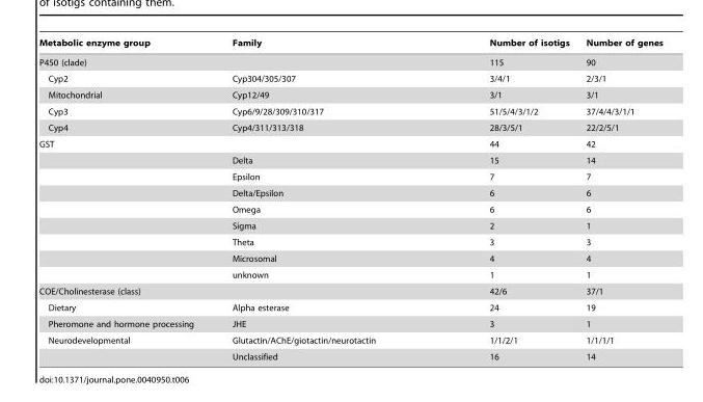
<table><thead><tr><td>Metabolic enzyme group</td><td>Family</td><td>Number of isotigs</td><td>Number of genes</td></tr></thead><tbody><tr><td>P450 (clade)</td><td></td><td>115</td><td>90</td></tr><tr><td>Cyp2</td><td>Cyp304/305/307</td><td>3/4/1</td><td>2/3/1</td></tr><tr><td>Mitochondrial</td><td>Cyp12/49</td><td>3/1</td><td>3/1</td></tr><tr><td>Cyp3</td><td>Cyp6/9/28/309/310/317</td><td>51/5/4/3/1/2</td><td>37/4/4/3/1/1</td></tr><tr><td>Cyp4</td><td>Cyp4/311/313/318</td><td>28/3/5/1</td><td>22/2/5/1</td></tr><tr><td rowspan="9">GST</td><td></td><td>44</td><td>42</td></tr><tr><td>Delta</td><td>15</td><td>14</td></tr><tr><td>Epsilon</td><td>7</td><td>7</td></tr><tr><td>Delta/Epsilon</td><td>6</td><td>6</td></tr><tr><td>Omega</td><td>6</td><td>6</td></tr><tr><td>Sigma</td><td>2</td><td>1</td></tr><tr><td>Theta</td><td>3</td><td>3</td></tr><tr><td>Microsomal</td><td>4</td><td>4</td></tr><tr><td>unknown</td><td>1</td><td>1</td></tr><tr><td>COE/Cholinesterase (class)</td><td></td><td>42/6</td><td>37/1</td></tr><tr><td>Dietary</td><td>Alpha esterase</td><td>24</td><td>19</td></tr><tr><td>Pheromone and hormone processing</td><td>JHE</td><td>3</td><td>1</td></tr><tr><td rowspan="2">Neurodevelopmental</td><td>Glutactin/AChE/giotactin/neurotactin</td><td>1/1/2/1</td><td>1/1/1/1</td></tr><tr><td>Unclassified</td><td>16</td><td>14</td></tr></tbody></table>